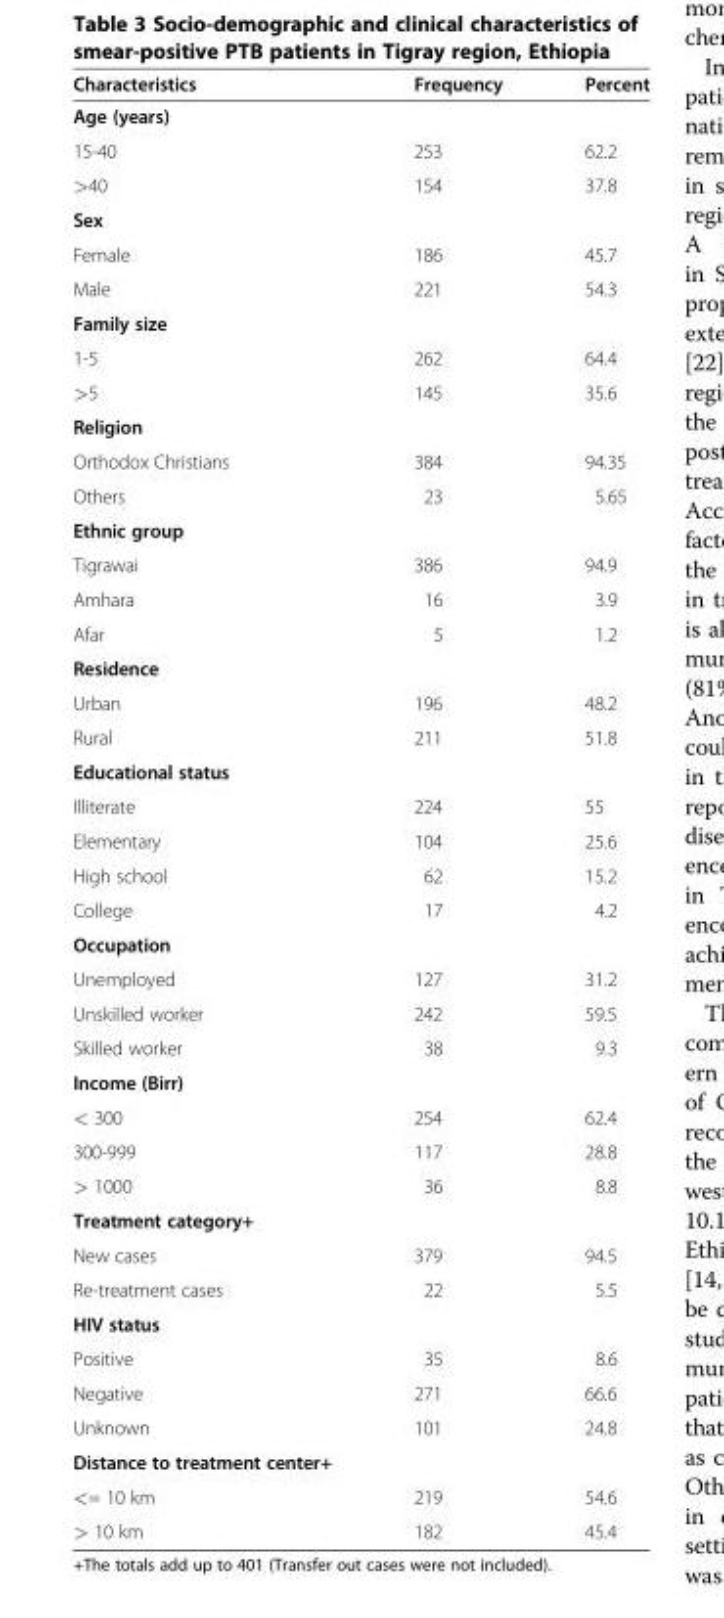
<table><thead><tr><td>Characteristics</td><td>Frequency</td><td>Percent</td></tr></thead><tbody><tr><td colspan="3">Age (years)</td></tr><tr><td>15-40</td><td>253</td><td>62.2</td></tr><tr><td>&gt;40</td><td>154</td><td>37.8</td></tr><tr><td colspan="3">Sex</td></tr><tr><td>Female</td><td>186</td><td>45.7</td></tr><tr><td>Male</td><td>221</td><td>54.3</td></tr><tr><td colspan="3">Family size</td></tr><tr><td>1-5</td><td>262</td><td>64.4</td></tr><tr><td>&gt;5</td><td>145</td><td>35.6</td></tr><tr><td colspan="3">Religion</td></tr><tr><td>Orthodox Christians</td><td>384</td><td>94.35</td></tr><tr><td>Others</td><td>23</td><td>5.65</td></tr><tr><td colspan="3">Ethnic group</td></tr><tr><td>Tigrawai</td><td>386</td><td>94.9</td></tr><tr><td>Amhara</td><td>16</td><td>3.9</td></tr><tr><td>Afar</td><td>5</td><td>1.2</td></tr><tr><td colspan="3">Residence</td></tr><tr><td>Urban</td><td>196</td><td>48.2</td></tr><tr><td>Rural</td><td>211</td><td>51.8</td></tr><tr><td colspan="3">Educational status</td></tr><tr><td>Illiterate</td><td>224</td><td>55</td></tr><tr><td>Elementary</td><td>104</td><td>25.6</td></tr><tr><td>High school</td><td>62</td><td>15.2</td></tr><tr><td>College</td><td>17</td><td>4.2</td></tr><tr><td colspan="3">Occupation</td></tr><tr><td>Unemployed</td><td>127</td><td>31.2</td></tr><tr><td>Unskilled worker</td><td>242</td><td>59.5</td></tr><tr><td>Skilled worker</td><td>38</td><td>9.3</td></tr><tr><td colspan="3">Income (Birr)</td></tr><tr><td>&lt; 300</td><td>254</td><td>62.4</td></tr><tr><td>300-999</td><td>117</td><td>28.8</td></tr><tr><td>&gt; 1000</td><td>36</td><td>8.8</td></tr><tr><td colspan="3">Treatment category+</td></tr><tr><td>New cases</td><td>379</td><td>94.5</td></tr><tr><td>Re-treatment cases</td><td>22</td><td>5.5</td></tr><tr><td colspan="3">HIV status</td></tr><tr><td>Positive</td><td>35</td><td>8.6</td></tr><tr><td>Negative</td><td>271</td><td>66.6</td></tr><tr><td>Unknown</td><td>101</td><td>24.8</td></tr><tr><td colspan="3">Distance to treatment center+</td></tr><tr><td>&lt;= 10 km</td><td>219</td><td>54.6</td></tr><tr><td>&gt; 10 km</td><td>182</td><td>45.4</td></tr></tbody></table>